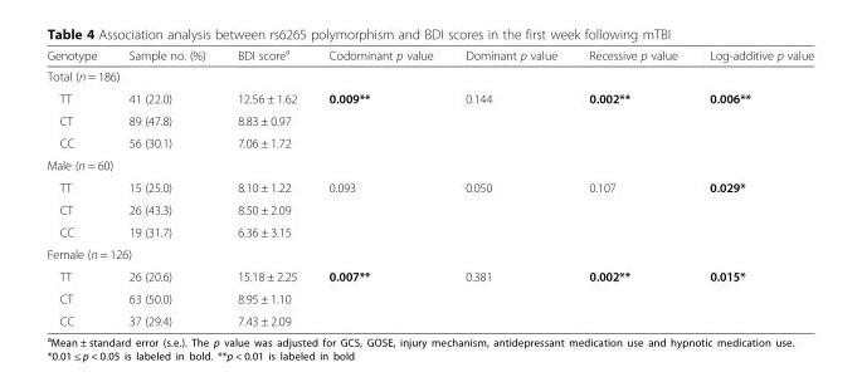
<table><thead><tr><td>Genotype</td><td>Sample no. (%)</td><td>BDI score<sup>a</sup></td><td>Codominant p value</td><td>Dominant p value</td><td>Recessive p value</td><td>Log-additive p value</td></tr></thead><tbody><tr><td colspan="7">Total (n = 186)</td></tr><tr><td>TT</td><td>41 (22.0)</td><td>12.56 ± 1.62</td><td>0.009**</td><td>0.144</td><td>0.002**</td><td>0.006**</td></tr><tr><td>CT</td><td>89 (47.8)</td><td>8.83 ± 0.97</td><td></td><td></td><td></td><td></td></tr><tr><td>CC</td><td>56 (30.1)</td><td>7.06 ± 1.72</td><td></td><td></td><td></td><td></td></tr><tr><td colspan="7">Male (n = 60)</td></tr><tr><td>TT</td><td>15 (25.0)</td><td>8.10 ± 1.22</td><td>0.093</td><td>0.050</td><td>0.107</td><td>0.029*</td></tr><tr><td>CT</td><td>26 (43.3)</td><td>8.50 ± 2.09</td><td></td><td></td><td></td><td></td></tr><tr><td>CC</td><td>19 (31.7)</td><td>6.36 ± 3.15</td><td></td><td></td><td></td><td></td></tr><tr><td colspan="7">Female (n = 126)</td></tr><tr><td>TT</td><td>26 (20.6)</td><td>15.18 ± 2.25</td><td>0.007**</td><td>0.381</td><td>0.002**</td><td>0.015*</td></tr><tr><td>CT</td><td>63 (50.0)</td><td>8.95 ± 1.10</td><td></td><td></td><td></td><td></td></tr><tr><td>CC</td><td>37 (29.4)</td><td>7.43 ± 2.09</td><td></td><td></td><td></td><td></td></tr></tbody></table>